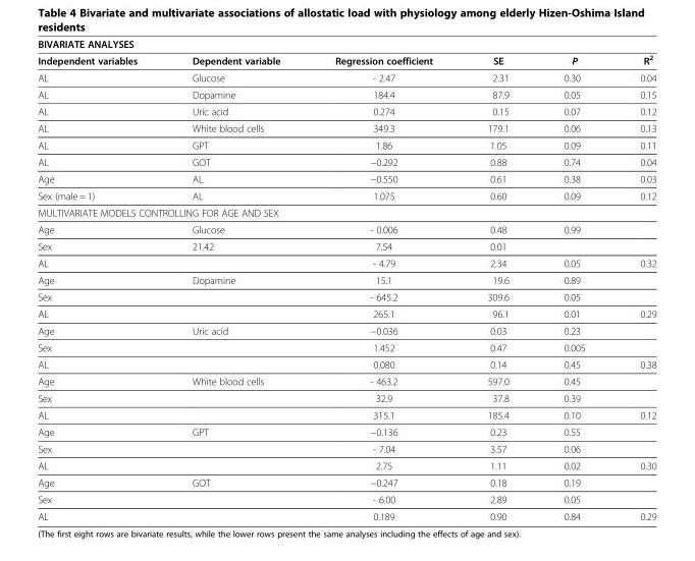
<table><thead><tr><td colspan="6">BIVARIATE ANALYSES</td></tr><tr><td>Independent variables</td><td>Dependent variable</td><td>Regression coefficient</td><td>SE</td><td>P</td><td>R<sup>2</sup></td></tr></thead><tbody><tr><td>AL</td><td>Glucose</td><td>- 2.47</td><td>2.31</td><td>0.30</td><td>0.04</td></tr><tr><td>AL</td><td>Dopamine</td><td>184.4</td><td>87.9</td><td>0.05</td><td>0.15</td></tr><tr><td>AL</td><td>Uric acid</td><td>0.274</td><td>0.15</td><td>0.07</td><td>0.12</td></tr><tr><td>AL</td><td>White blood cells</td><td>349.3</td><td>179.1</td><td>0.06</td><td>0.13</td></tr><tr><td>AL</td><td>GPT</td><td>1.86</td><td>1.05</td><td>0.09</td><td>0.11</td></tr><tr><td>AL</td><td>GOT</td><td>−0.292</td><td>0.88</td><td>0.74</td><td>0.04</td></tr><tr><td>Age</td><td>AL</td><td>−0.550</td><td>0.61</td><td>0.38</td><td>0.03</td></tr><tr><td>Sex (male = 1)</td><td>AL</td><td>1.075</td><td>0.60</td><td>0.09</td><td>0.12</td></tr><tr><td colspan="6">MULTIVARIATE MODELS CONTROLLING FOR AGE AND SEX</td></tr><tr><td>Age</td><td>Glucose</td><td>- 0.006</td><td>0.48</td><td>0.99</td><td></td></tr><tr><td>Sex</td><td>21.42</td><td>7.54</td><td>0.01</td><td></td><td></td></tr><tr><td>AL</td><td></td><td>- 4.79</td><td>2.34</td><td>0.05</td><td>0.32</td></tr><tr><td>Age</td><td>Dopamine</td><td>15.1</td><td>19.6</td><td>0.89</td><td></td></tr><tr><td>Sex</td><td></td><td>- 645.2</td><td>309.6</td><td>0.05</td><td></td></tr><tr><td>AL</td><td></td><td>265.1</td><td>96.1</td><td>0.01</td><td>0.29</td></tr><tr><td>Age</td><td>Uric acid</td><td>−0.036</td><td>0.03</td><td>0.23</td><td></td></tr><tr><td>Sex</td><td></td><td>1.452</td><td>0.47</td><td>0.005</td><td></td></tr><tr><td>AL</td><td></td><td>0.080</td><td>0.14</td><td>0.45</td><td>0.38</td></tr><tr><td>Age</td><td>White blood cells</td><td>- 463.2</td><td>597.0</td><td>0.45</td><td></td></tr><tr><td>Sex</td><td></td><td>32.9</td><td>37.8</td><td>0.39</td><td></td></tr><tr><td>AL</td><td></td><td>315.1</td><td>185.4</td><td>0.10</td><td>0.12</td></tr><tr><td>Age</td><td>GPT</td><td>−0.136</td><td>0.23</td><td>0.55</td><td></td></tr><tr><td>Sex</td><td></td><td>- 7.04</td><td>3.57</td><td>0.06</td><td></td></tr><tr><td>AL</td><td></td><td>2.75</td><td>1.11</td><td>0.02</td><td>0.30</td></tr><tr><td>Age</td><td>GOT</td><td>−0.247</td><td>0.18</td><td>0.19</td><td></td></tr><tr><td>Sex</td><td></td><td>- 6.00</td><td>2.89</td><td>0.05</td><td></td></tr><tr><td>AL</td><td></td><td>0.189</td><td>0.90</td><td>0.84</td><td>0.29</td></tr></tbody></table>